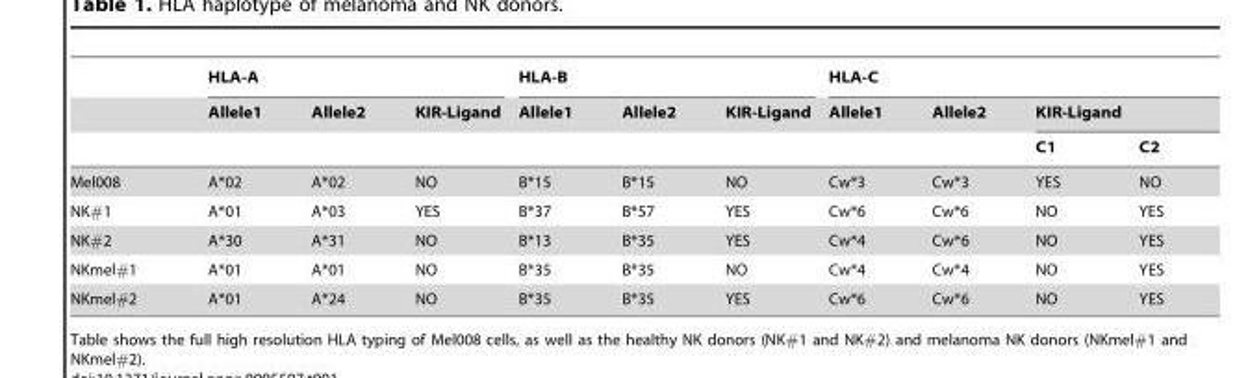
<table><thead><tr><td rowspan="3"></td><td colspan="3">HLA-A</td><td colspan="3">HLA-B</td><td colspan="4">HLA-C</td></tr><tr><td rowspan="2">Allele1</td><td rowspan="2">Allele2</td><td rowspan="2">KIR-Ligand</td><td rowspan="2">Allele1</td><td rowspan="2">Allele2</td><td rowspan="2">KIR-Ligand</td><td rowspan="2">Allele1</td><td rowspan="2">Allele2</td><td colspan="2">KIR-Ligand</td></tr><tr><td>C1</td><td>C2</td></tr></thead><tbody><tr><td>Mel008</td><td>A*02</td><td>A*02</td><td>NO</td><td>B*15</td><td>B*15</td><td>NO</td><td>Cw*3</td><td>Cw*3</td><td>YES</td><td>NO</td></tr><tr><td>NK#1</td><td>A*01</td><td>A*03</td><td>YES</td><td>B*37</td><td>B*57</td><td>YES</td><td>Cw*6</td><td>Cw*6</td><td>NO</td><td>YES</td></tr><tr><td>NK#2</td><td>A*30</td><td>A*31</td><td>NO</td><td>B*13</td><td>B*35</td><td>YES</td><td>Cw*4</td><td>Cw*6</td><td>NO</td><td>YES</td></tr><tr><td>NKmel#1</td><td>A*01</td><td>A*01</td><td>NO</td><td>B*35</td><td>B*35</td><td>NO</td><td>Cw*4</td><td>Cw*4</td><td>NO</td><td>YES</td></tr><tr><td>NKmel#2</td><td>A*01</td><td>A*24</td><td>NO</td><td>B*35</td><td>B*35</td><td>YES</td><td>Cw*6</td><td>Cw*6</td><td>NO</td><td>YES</td></tr></tbody></table>